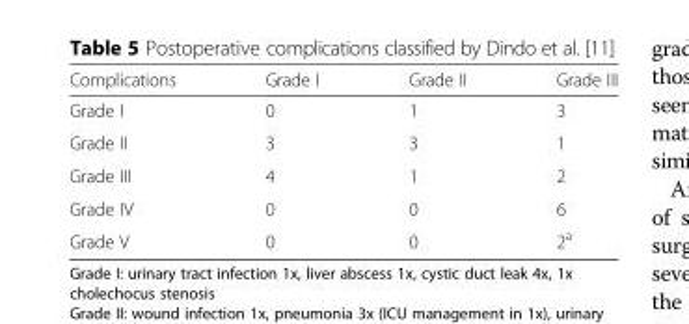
<table><thead><tr><td>Complications</td><td>Grade I</td><td>Grade II</td><td>Grade III</td></tr></thead><tbody><tr><td>Grade I</td><td>0</td><td>1</td><td>3</td></tr><tr><td>Grade II</td><td>3</td><td>3</td><td>1</td></tr><tr><td>Grade III</td><td>4</td><td>1</td><td>2</td></tr><tr><td>Grade IV</td><td>0</td><td>0</td><td>6</td></tr><tr><td>Grade V</td><td>0</td><td>0</td><td>2<sup>a</sup></td></tr></tbody></table>